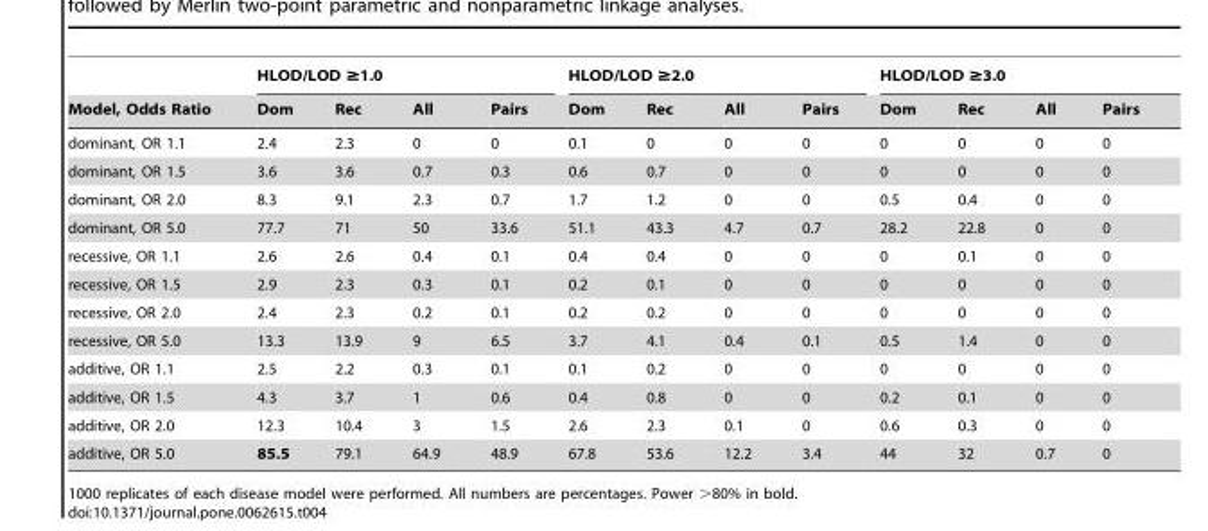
<table><thead><tr><td rowspan="2">Model, Odds Ratio</td><td colspan="4">HLOD/LOD ≥1.0</td><td colspan="4">HLOD/LOD ≥2.0</td><td colspan="4">HLOD/LOD ≥3.0</td></tr><tr><td>Dom</td><td>Rec</td><td>All</td><td>Pairs</td><td>Dom</td><td>Rec</td><td>All</td><td>Pairs</td><td>Dom</td><td>Rec</td><td>All</td><td>Pairs</td></tr></thead><tbody><tr><td>dominant, OR 1.1</td><td>2.4</td><td>2.3</td><td>0</td><td>0</td><td>0.1</td><td>0</td><td>0</td><td>0</td><td>0</td><td>0</td><td>0</td><td>0</td></tr><tr><td>dominant, OR 1.5</td><td>3.6</td><td>3.6</td><td>0.7</td><td>0.3</td><td>0.6</td><td>0.7</td><td>0</td><td>0</td><td>0</td><td>0</td><td>0</td><td>0</td></tr><tr><td>dominant, OR 2.0</td><td>8.3</td><td>9.1</td><td>2.3</td><td>0.7</td><td>1.7</td><td>1.2</td><td>0</td><td>0</td><td>0.5</td><td>0.4</td><td>0</td><td>0</td></tr><tr><td>dominant, OR 5.0</td><td>77.7</td><td>71</td><td>50</td><td>33.6</td><td>51.1</td><td>43.3</td><td>4.7</td><td>0.7</td><td>28.2</td><td>22.8</td><td>0</td><td>0</td></tr><tr><td>recessive, OR 1.1</td><td>2.6</td><td>2.6</td><td>0.4</td><td>0.1</td><td>0.4</td><td>0.4</td><td>0</td><td>0</td><td>0</td><td>0.1</td><td>0</td><td>0</td></tr><tr><td>recessive, OR 1.5</td><td>2.9</td><td>2.3</td><td>0.3</td><td>0.1</td><td>0.2</td><td>0.1</td><td>0</td><td>0</td><td>0</td><td>0</td><td>0</td><td>0</td></tr><tr><td>recessive, OR 2.0</td><td>2.4</td><td>2.3</td><td>0.2</td><td>0.1</td><td>0.2</td><td>0.2</td><td>0</td><td>0</td><td>0</td><td>0</td><td>0</td><td>0</td></tr><tr><td>recessive, OR 5.0</td><td>13.3</td><td>13.9</td><td>9</td><td>6.5</td><td>3.7</td><td>4.1</td><td>0.4</td><td>0.1</td><td>0.5</td><td>1.4</td><td>0</td><td>0</td></tr><tr><td>additive, OR 1.1</td><td>2.5</td><td>2.2</td><td>0.3</td><td>0.1</td><td>0.1</td><td>0.2</td><td>0</td><td>0</td><td>0</td><td>0</td><td>0</td><td>0</td></tr><tr><td>additive, OR 1.5</td><td>4.3</td><td>3.7</td><td>1</td><td>0.6</td><td>0.4</td><td>0.8</td><td>0</td><td>0</td><td>0.2</td><td>0.1</td><td>0</td><td>0</td></tr><tr><td>additive, OR 2.0</td><td>12.3</td><td>10.4</td><td>3</td><td>1.5</td><td>2.6</td><td>2.3</td><td>0.1</td><td>0</td><td>0.6</td><td>0.3</td><td>0</td><td>0</td></tr><tr><td>additive, OR 5.0</td><td>85.5</td><td>79.1</td><td>64.9</td><td>48.9</td><td>67.8</td><td>53.6</td><td>12.2</td><td>3.4</td><td>44</td><td>32</td><td>0.7</td><td>0</td></tr></tbody></table>